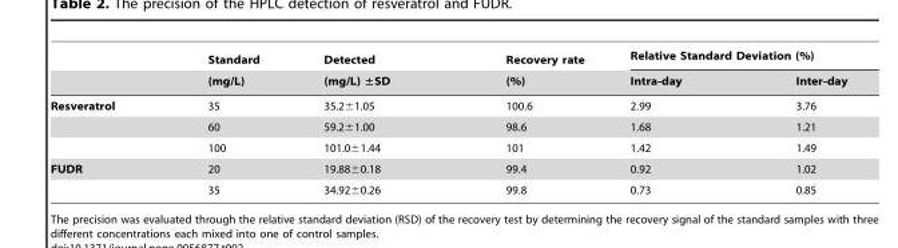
<table><thead><tr><td rowspan="2"></td><td rowspan="2">Standard (mg/L)</td><td rowspan="2">Detected (mg/L) ±SD</td><td rowspan="2">Recovery rate (%)</td><td colspan="2">Relative Standard Deviation (%)</td></tr><tr><td>Intra-day</td><td>Inter-day</td></tr></thead><tbody><tr><td rowspan="3">Resveratrol</td><td>35</td><td>35.2±1.05</td><td>100.6</td><td>2.99</td><td>3.76</td></tr><tr><td>60</td><td>59.2±1.00</td><td>98.6</td><td>1.68</td><td>1.21</td></tr><tr><td>100</td><td>101.0±1.44</td><td>101</td><td>1.42</td><td>1.49</td></tr><tr><td rowspan="2">FUDR</td><td>20</td><td>19.88±0.18</td><td>99.4</td><td>0.92</td><td>1.02</td></tr><tr><td>35</td><td>34.92±0.26</td><td>99.8</td><td>0.73</td><td>0.85</td></tr></tbody></table>